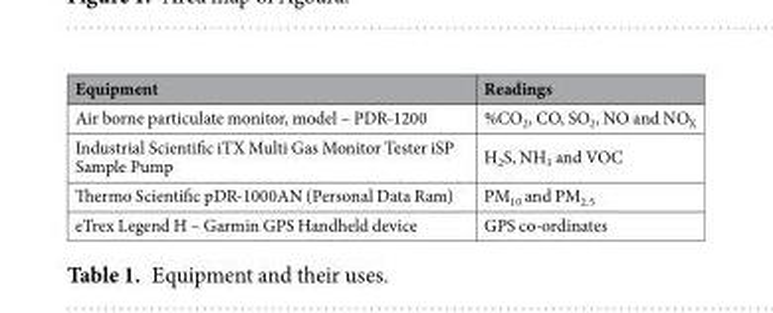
<table><thead><tr><td>Equipment</td><td>Readings</td></tr></thead><tbody><tr><td>Air borne particulate monitor, model – PDR-1200</td><td>%CO<sub>2</sub>, CO, SO<sub>2</sub>, NO and NO<sub>X</sub></td></tr><tr><td>Industrial Scientific iTX Multi Gas Monitor Tester iSP Sample Pump</td><td>H<sub>2</sub>S, NH<sub>3</sub> and VOC</td></tr><tr><td>Thermo Scientific pDR-1000AN (Personal Data Ram)</td><td>PM<sub>10</sub> and PM<sub>2.5</sub></td></tr><tr><td>eTrex Legend H – Garmin GPS Handheld device</td><td>GPS co-ordinates</td></tr></tbody></table>